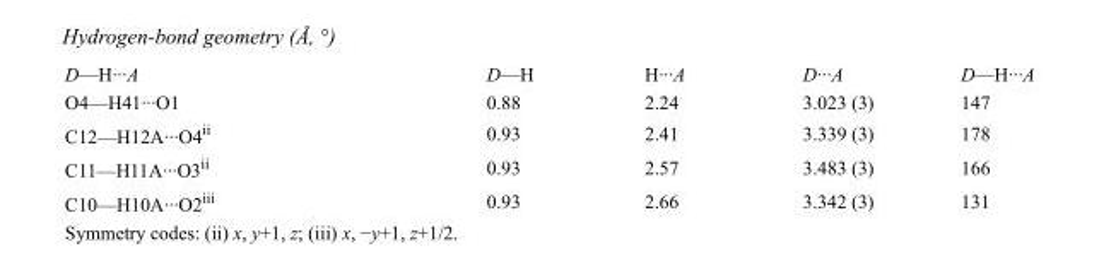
<table><tbody><tr><td>D—H···A</td><td>D—H</td><td>H···A</td><td>D···A</td><td>D—H···A</td></tr><tr><td>O4—H41···O1</td><td>0.88</td><td>2.24</td><td>3.023 (3)</td><td>147</td></tr><tr><td>C12—H12A···O4<sup>ii</sup></td><td>0.93</td><td>2.41</td><td>3.339 (3)</td><td>178</td></tr><tr><td>C11—H11A···O3<sup>ii</sup></td><td>0.93</td><td>2.57</td><td>3.483 (3)</td><td>166</td></tr><tr><td>C10—H10A···O2<sup>iii</sup></td><td>0.93</td><td>2.66</td><td>3.342 (3)</td><td>131</td></tr></tbody></table>